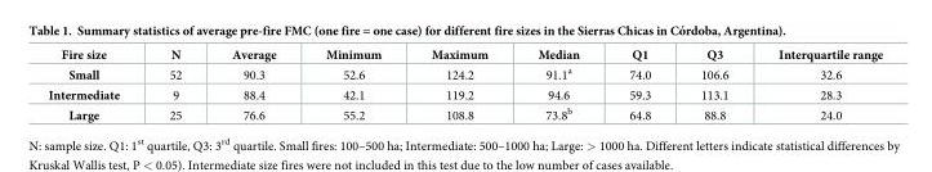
<table><thead><tr><td>Fire size</td><td>N</td><td>Average</td><td>Minimum</td><td>Maximum</td><td>Median</td><td>Q1</td><td>Q3</td><td>Interquartile range</td></tr></thead><tbody><tr><td>Small</td><td>52</td><td>90.3</td><td>52.6</td><td>124.2</td><td>91.1<sup>a</sup></td><td>74.0</td><td>106.6</td><td>32.6</td></tr><tr><td>Intermediate</td><td>9</td><td>88.4</td><td>42.1</td><td>119.2</td><td>94.6</td><td>59.3</td><td>113.1</td><td>28.3</td></tr><tr><td>Large</td><td>25</td><td>76.6</td><td>55.2</td><td>108.8</td><td>73.8<sup>b</sup></td><td>64.8</td><td>88.8</td><td>24.0</td></tr></tbody></table>